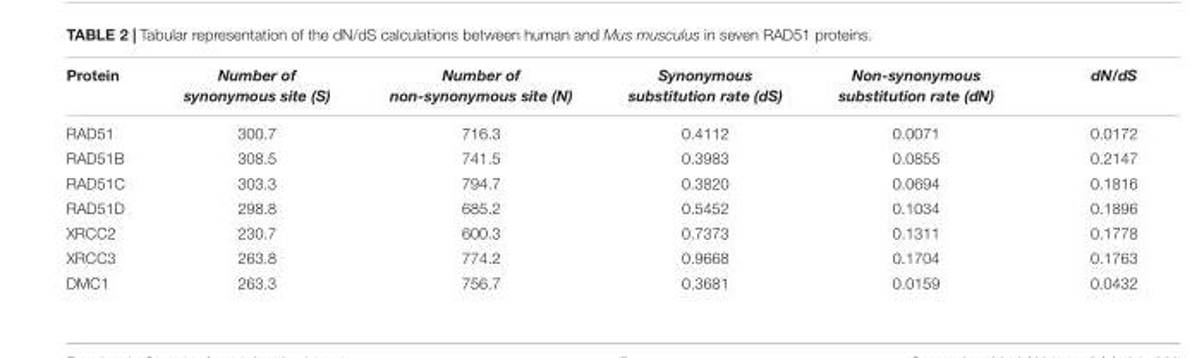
<table><thead><tr><td>Protein</td><td>Number of synonymous site (S)</td><td>Number of non-synonymous site (N)</td><td>Synonymous substitution rate (dS)</td><td>Non-synonymous substitution rate (dN)</td><td>dN/dS</td></tr></thead><tbody><tr><td>RAD51</td><td>300.7</td><td>716.3</td><td>0.4112</td><td>0.0071</td><td>0.0172</td></tr><tr><td>RAD51B</td><td>308.5</td><td>741.5</td><td>0.3983</td><td>0.0855</td><td>0.2147</td></tr><tr><td>RAD51C</td><td>303.3</td><td>794.7</td><td>0.3820</td><td>0.0694</td><td>0.1816</td></tr><tr><td>RAD51D</td><td>298.8</td><td>685.2</td><td>0.5452</td><td>0.1034</td><td>0.1896</td></tr><tr><td>XRCC2</td><td>230.7</td><td>600.3</td><td>0.7373</td><td>0.1311</td><td>0.1778</td></tr><tr><td>XRCC3</td><td>263.8</td><td>774.2</td><td>0.9668</td><td>0.1704</td><td>0.1763</td></tr><tr><td>DMC1</td><td>263.3</td><td>756.7</td><td>0.3681</td><td>0.0159</td><td>0.0432</td></tr></tbody></table>